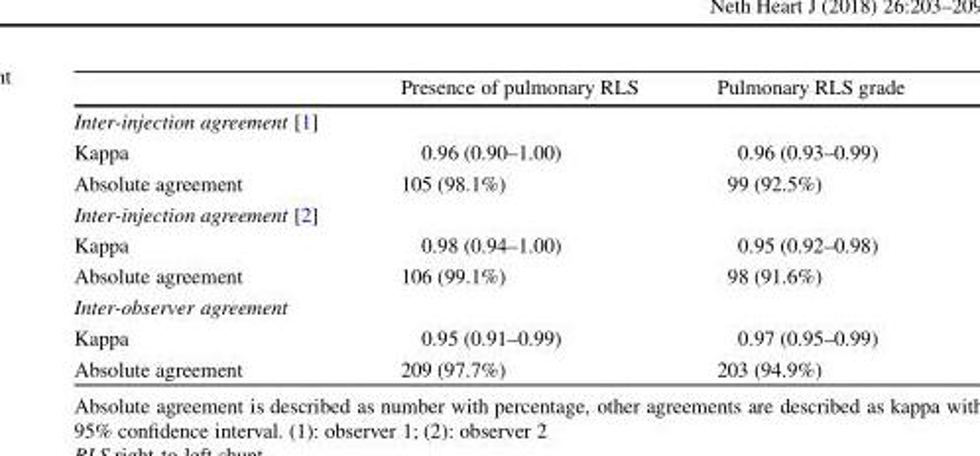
<table><thead><tr><td></td><td>Presence of pulmonary RLS</td><td>Pulmonary RLS grade</td></tr></thead><tbody><tr><td colspan="3">Inter-injection agreement [1]</td></tr><tr><td>Kappa</td><td>0.96 (0.90–1.00)</td><td>0.96 (0.93–0.99)</td></tr><tr><td>Absolute agreement</td><td>105 (98.1%)</td><td>99 (92.5%)</td></tr><tr><td colspan="3">Inter-injection agreement [2]</td></tr><tr><td>Kappa</td><td>0.98 (0.94–1.00)</td><td>0.95 (0.92–0.98)</td></tr><tr><td>Absolute agreement</td><td>106 (99.1%)</td><td>98 (91.6%)</td></tr><tr><td colspan="3">Inter-observer agreement</td></tr><tr><td>Kappa</td><td>0.95 (0.91–0.99)</td><td>0.97 (0.95–0.99)</td></tr><tr><td>Absolute agreement</td><td>209 (97.7%)</td><td>203 (94.9%)</td></tr></tbody></table>